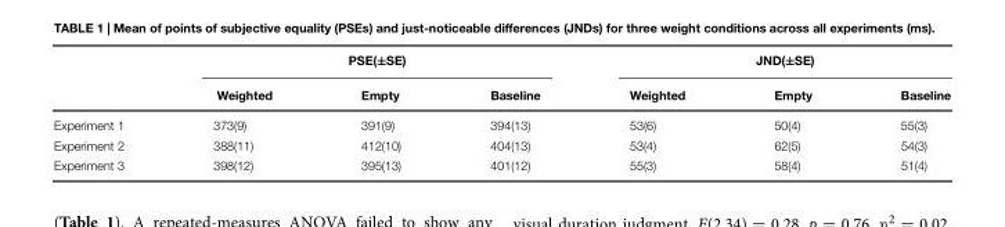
<table><thead><tr><td rowspan="2"></td><td colspan="3">PSE(±SE)</td><td colspan="3">JND(±SE)</td></tr><tr><td>Weighted</td><td>Empty</td><td>Baseline</td><td>Weighted</td><td>Empty</td><td>Baseline</td></tr></thead><tbody><tr><td>Experiment 1</td><td>373(9)</td><td>391(9)</td><td>394(13)</td><td>53(6)</td><td>50(4)</td><td>55(3)</td></tr><tr><td>Experiment 2</td><td>388(11)</td><td>412(10)</td><td>404(13)</td><td>53(4)</td><td>62(5)</td><td>54(3)</td></tr><tr><td>Experiment 3</td><td>398(12)</td><td>395(13)</td><td>401(12)</td><td>55(3)</td><td>58(4)</td><td>51(4)</td></tr></tbody></table>